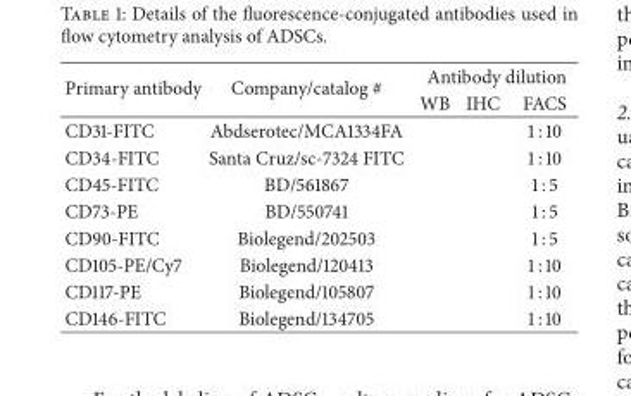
<table><thead><tr><td rowspan="2">Primary antibody</td><td rowspan="2">Company/catalog #</td><td colspan="3">Antibody dilution</td></tr><tr><td>WB</td><td>IHC</td><td>FACS</td></tr></thead><tbody><tr><td>CD31-FITC</td><td>Abdserotec/MCA1334FA</td><td></td><td></td><td>1 : 10</td></tr><tr><td>CD34-FITC</td><td>Santa Cruz/sc-7324 FITC</td><td></td><td></td><td>1 : 10</td></tr><tr><td>CD45-FITC</td><td>BD/561867</td><td></td><td></td><td>1 : 5</td></tr><tr><td>CD73-PE</td><td>BD/550741</td><td></td><td></td><td>1 : 5</td></tr><tr><td>CD90-FITC</td><td>Biolegend/202503</td><td></td><td></td><td>1 : 5</td></tr><tr><td>CD105-PE/Cy7</td><td>Biolegend/120413</td><td></td><td></td><td>1 : 10</td></tr><tr><td>CD117-PE</td><td>Biolegend/105807</td><td></td><td></td><td>1 : 10</td></tr><tr><td>CD146-FITC</td><td>Biolegend/134705</td><td></td><td></td><td>1 : 10</td></tr></tbody></table>